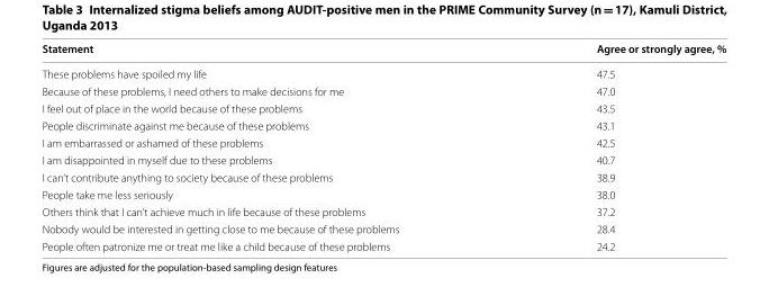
<table><thead><tr><td>Statement</td><td>Agree or strongly agree, %</td></tr></thead><tbody><tr><td>These problems have spoiled my life</td><td>47.5</td></tr><tr><td>Because of these problems, I need others to make decisions for me</td><td>47.0</td></tr><tr><td>I feel out of place in the world because of these problems</td><td>43.5</td></tr><tr><td>People discriminate against me because of these problems</td><td>43.1</td></tr><tr><td>I am embarrassed or ashamed of these problems</td><td>42.5</td></tr><tr><td>I am disappointed in myself due to these problems</td><td>40.7</td></tr><tr><td>I can’t contribute anything to society because of these problems</td><td>38.9</td></tr><tr><td>People take me less seriously</td><td>38.0</td></tr><tr><td>Others think that I can’t achieve much in life because of these problems</td><td>37.2</td></tr><tr><td>Nobody would be interested in getting close to me because of these problems</td><td>28.4</td></tr><tr><td>People often patronize me or treat me like a child because of these problems</td><td>24.2</td></tr></tbody></table>